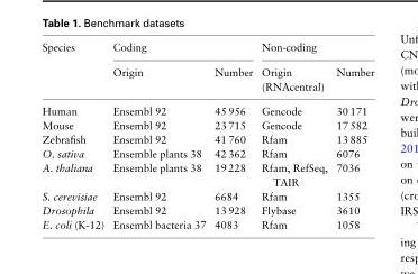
<table><thead><tr><td rowspan="2">Species</td><td colspan="2">Coding</td><td colspan="2">Non-coding</td></tr><tr><td>Origin</td><td>Number</td><td>Origin (RNAcentral)</td><td>Number</td></tr></thead><tbody><tr><td>Human</td><td>Ensembl 92</td><td>45 956</td><td>Gencode</td><td>30 171</td></tr><tr><td>Mouse</td><td>Ensembl 92</td><td>23 715</td><td>Gencode</td><td>17 582</td></tr><tr><td>Zebrafish</td><td>Ensembl 92</td><td>41 760</td><td>Rfam</td><td>13 885</td></tr><tr><td>O. sativa</td><td>Ensemble plants 38</td><td>42 362</td><td>Rfam</td><td>6076</td></tr><tr><td>A. thaliana</td><td>Ensemble plants 38</td><td>19 228</td><td>Rfam, RefSeq, TAIR</td><td>7036</td></tr><tr><td>S. cerevisiae</td><td>Ensembl 92</td><td>6684</td><td>Rfam</td><td>1355</td></tr><tr><td>Drosophila</td><td>Ensembl 92</td><td>13 928</td><td>Flybase</td><td>3610</td></tr><tr><td>E. coli (K-12)</td><td>Ensembl bacteria 37</td><td>4083</td><td>Rfam</td><td>1058</td></tr></tbody></table>